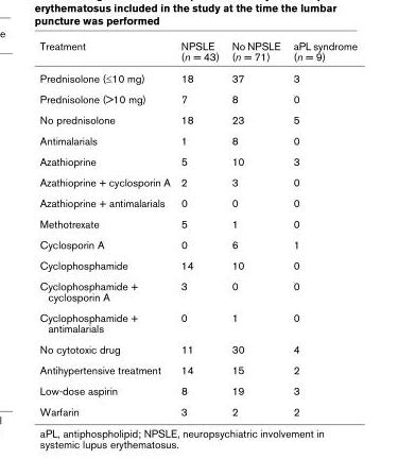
<table><thead><tr><td>Treatment</td><td>NPSLE (n = 43)</td><td>No NPSLE (n = 71)</td><td>aPL syndrome (n = 9)</td></tr></thead><tbody><tr><td>Prednisolone (≤10 mg)</td><td>18</td><td>37</td><td>3</td></tr><tr><td>Prednisolone (&gt;10 mg)</td><td>7</td><td>8</td><td>0</td></tr><tr><td>No prednisolone</td><td>18</td><td>23</td><td>5</td></tr><tr><td>Antimalarials</td><td>1</td><td>8</td><td>0</td></tr><tr><td>Azathioprine</td><td>5</td><td>10</td><td>3</td></tr><tr><td>Azathioprine + cyclosporin A</td><td>2</td><td>3</td><td>0</td></tr><tr><td>Azathioprine + antimalarials</td><td>0</td><td>0</td><td>0</td></tr><tr><td>Methotrexate</td><td>5</td><td>1</td><td>0</td></tr><tr><td>Cyclosporin A</td><td>0</td><td>6</td><td>1</td></tr><tr><td>Cyclophosphamide</td><td>14</td><td>10</td><td>0</td></tr><tr><td>Cyclophosphamide + cyclosporin A</td><td>3</td><td>0</td><td>0</td></tr><tr><td>Cyclophosphamide + antimalarials</td><td>0</td><td>1</td><td>0</td></tr><tr><td>No cytotoxic drug</td><td>11</td><td>30</td><td>4</td></tr><tr><td>Antihypertensive treatment</td><td>14</td><td>15</td><td>2</td></tr><tr><td>Low-dose aspirin</td><td>8</td><td>19</td><td>3</td></tr><tr><td>Warfarin</td><td>3</td><td>2</td><td>2</td></tr></tbody></table>